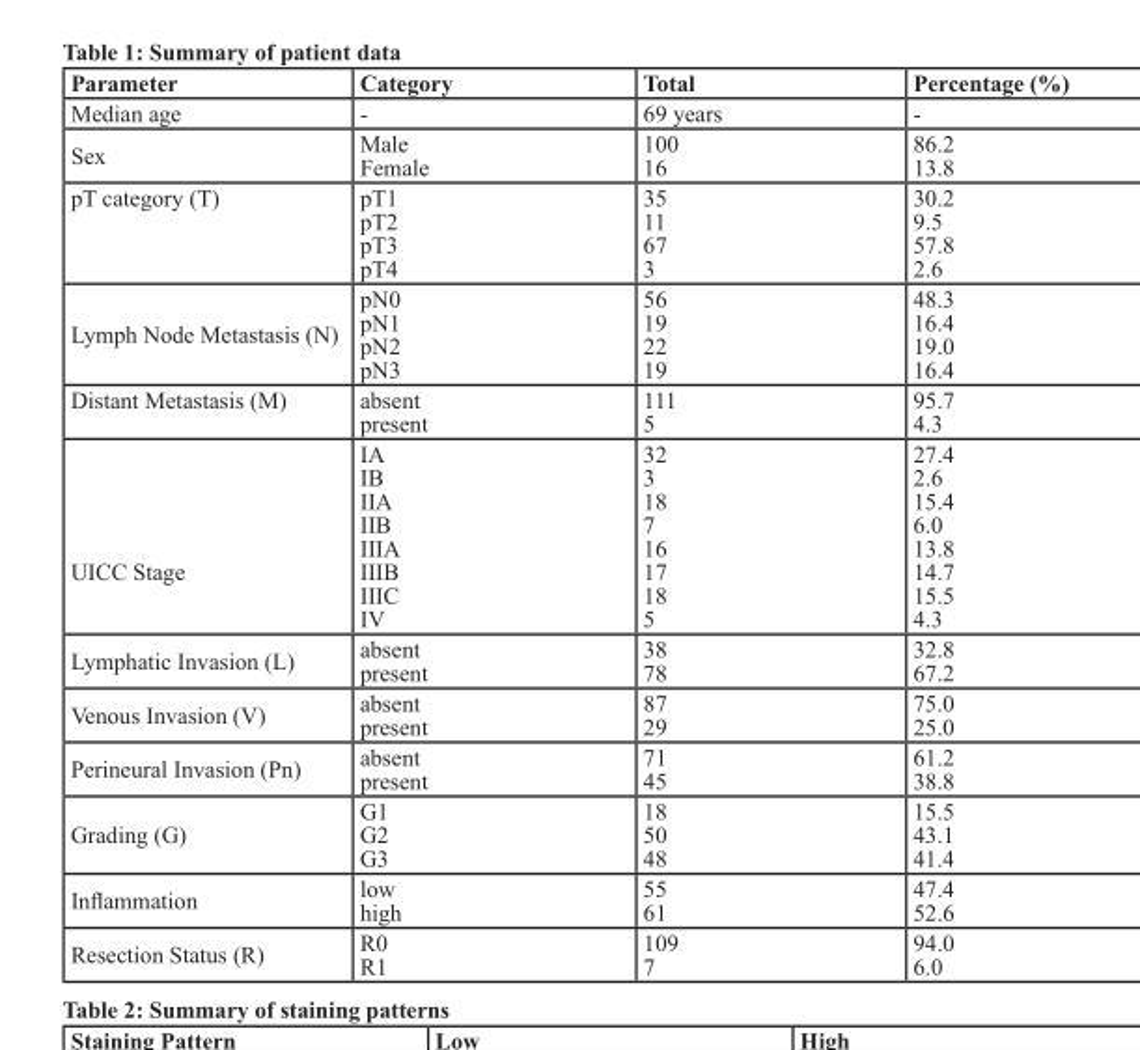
<table><thead><tr><td>Parameter</td><td>category</td><td>total</td><td>Percentage (%)</td></tr></thead><tbody><tr><td>Median age</td><td>-</td><td>69 years</td><td>-</td></tr><tr><td>Sex</td><td>Male Female</td><td>100 16</td><td>86.2 13.8</td></tr><tr><td>pT category (T)</td><td>pT1 pT2 pT3 pT4</td><td>35 11 67 3</td><td>30.2 9.5 57.8 2.6</td></tr><tr><td>Lymph Node Metastasis (N)</td><td>pN0 pN1 pN2 pN3</td><td>56 19 22 19</td><td>48.3 16.4 19.0 16.4</td></tr><tr><td>Distant Metastasis (M)</td><td>absent present</td><td>111 5</td><td>95.7 4.3</td></tr><tr><td>UICC Stage</td><td>IA IB IIA IIB IIIA IIIB IIIC IV</td><td>32 3 18 7 16 17 18 5</td><td>27.4 2.6 15.4 6.0 13.8 14.7 15.5 4.3</td></tr><tr><td>Lymphatic Invasion (L)</td><td>absent present</td><td>38 78</td><td>32.8 67.2</td></tr><tr><td>Venous Invasion (V)</td><td>absent present</td><td>87 29</td><td>75.0 25.0</td></tr><tr><td>Perineural Invasion (Pn)</td><td>absent present</td><td>71 45</td><td>61.2 38.8</td></tr><tr><td>Grading (G)</td><td>G1 G2 G3</td><td>18 50 48</td><td>15.5 43.1 41.4</td></tr><tr><td>Inflammation</td><td>low high</td><td>55 61</td><td>47.4 52.6</td></tr><tr><td>Resection Status (R)</td><td>R0 R1</td><td>109 7</td><td>94.0 6.0</td></tr></tbody></table>